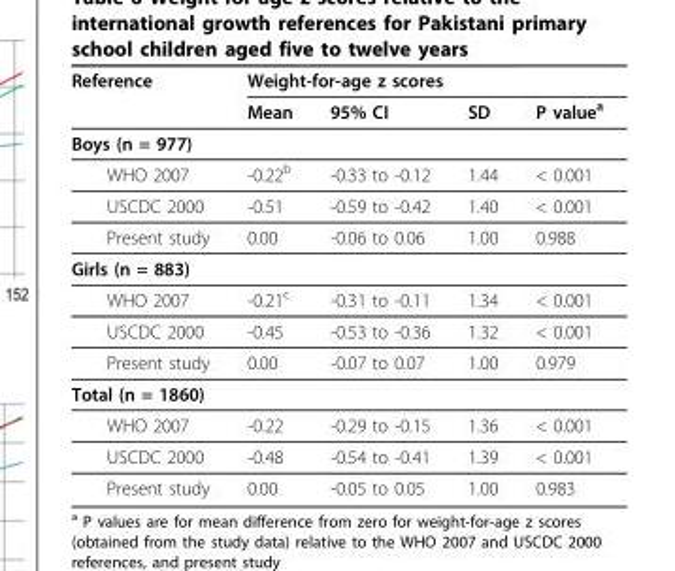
<table><thead><tr><td rowspan="2">Reference</td><td colspan="4">Weight-for-age z scores</td></tr><tr><td>Mean</td><td>95% CI</td><td>SD</td><td>P value<sup>a</sup></td></tr></thead><tbody><tr><td colspan="5">Boys (n = 977)</td></tr><tr><td>WHO 2007</td><td>-0.22<sup>b</sup></td><td>-0.33 to -0.12</td><td>1.44</td><td>&lt; 0.001</td></tr><tr><td>USCDC 2000</td><td>-0.51</td><td>-0.59 to -0.42</td><td>1.40</td><td>&lt; 0.001</td></tr><tr><td>Present study</td><td>0.00</td><td>-0.06 to 0.06</td><td>1.00</td><td>0.988</td></tr><tr><td colspan="5">Girls (n = 883)</td></tr><tr><td>WHO 2007</td><td>-0.21<sup>c</sup></td><td>-0.31 to -0.11</td><td>1.34</td><td>&lt; 0.001</td></tr><tr><td>USCDC 2000</td><td>-0.45</td><td>-0.53 to -0.36</td><td>1.32</td><td>&lt; 0.001</td></tr><tr><td>Present study</td><td>0.00</td><td>-0.07 to 0.07</td><td>1.00</td><td>0.979</td></tr><tr><td colspan="5">Total (n = 1860)</td></tr><tr><td>WHO 2007</td><td>-0.22</td><td>-0.29 to -0.15</td><td>1.36</td><td>&lt; 0.001</td></tr><tr><td>USCDC 2000</td><td>-0.48</td><td>-0.54 to -0.41</td><td>1.39</td><td>&lt; 0.001</td></tr><tr><td>Present study</td><td>0.00</td><td>-0.05 to 0.05</td><td>1.00</td><td>0.983</td></tr></tbody></table>